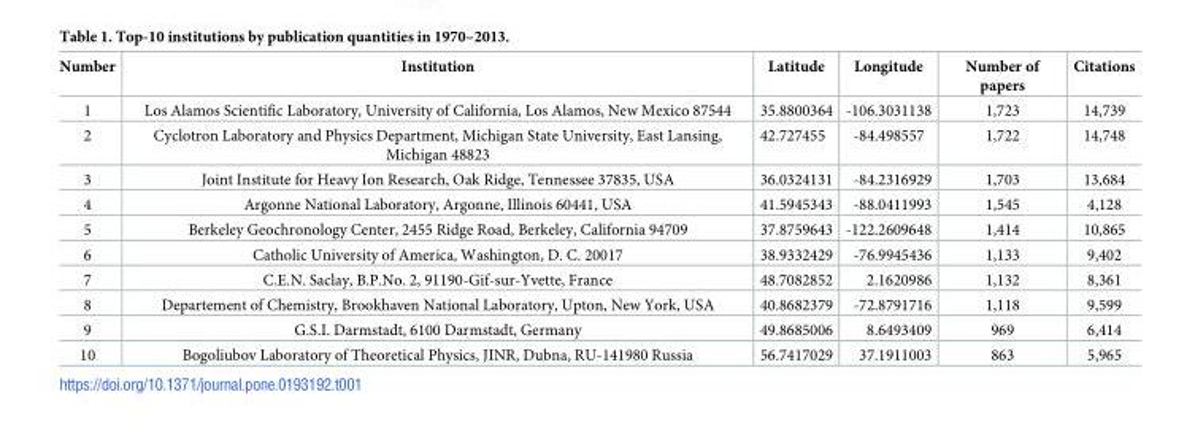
<table><thead><tr><td>Number</td><td>Institution</td><td>Latitude</td><td>Longitude</td><td>Number of papers</td><td>Citations</td></tr></thead><tbody><tr><td>1</td><td>Los Alamos Scientific Laboratory, University of California, Los Alamos, New Mexico 87544</td><td>35.8800364</td><td>-106.3031138</td><td>1,723</td><td>14,739</td></tr><tr><td>2</td><td>Cyclotron Laboratory and Physics Department, Michigan State University, East Lansing, Michigan 48823</td><td>42.727455</td><td>-84.498557</td><td>1,722</td><td>14,748</td></tr><tr><td>3</td><td>Joint Institute for Heavy Ion Research, Oak Ridge, Tennessee 37835, USA</td><td>36.0324131</td><td>-84.2316929</td><td>1,703</td><td>13,684</td></tr><tr><td>4</td><td>Argonne National Laboratory, Argonne, Illinois 60441, USA</td><td>41.5945343</td><td>-88.0411993</td><td>1,545</td><td>4,128</td></tr><tr><td>5</td><td>Berkeley Geochronology Center, 2455 Ridge Road, Berkeley, California 94709</td><td>37.8759643</td><td>-122.2609648</td><td>1,414</td><td>10,865</td></tr><tr><td>6</td><td>Catholic University of America, Washington, D. C. 20017</td><td>38.9332429</td><td>-76.9945436</td><td>1,133</td><td>9,402</td></tr><tr><td>7</td><td>C.E.N. Saclay, B.P.No. 2, 91190-Gif-sur-Yvette, France</td><td>48.7082852</td><td>2.1620986</td><td>1,132</td><td>8,361</td></tr><tr><td>8</td><td>Departement of Chemistry, Brookhaven National Laboratory, Upton, New York, USA</td><td>40.8682379</td><td>-72.8791716</td><td>1,118</td><td>9,599</td></tr><tr><td>9</td><td>G.S.I. Darmstadt, 6100 Darmstadt, Germany</td><td>49.8685006</td><td>8.6493409</td><td>969</td><td>6,414</td></tr><tr><td>10</td><td>Bogoliubov Laboratory of Theoretical Physics, JINR, Dubna, RU-141980 Russia</td><td>56.7417029</td><td>37.1911003</td><td>863</td><td>5,965</td></tr></tbody></table>